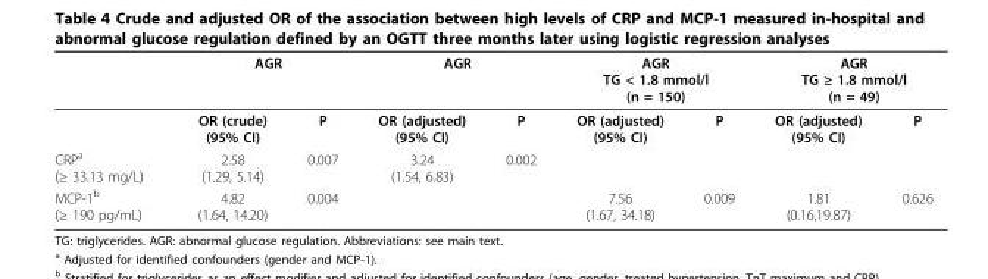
<table><thead><tr><td rowspan="2"></td><td colspan="2">AGR</td><td colspan="2">AGR</td><td colspan="2">AGR TG &lt; 1.8 mmol/l (n = 150)</td><td colspan="2">AGR TG ≥ 1.8 mmol/l (n = 49)</td></tr><tr><td>OR (crude) (95% CI)</td><td>P</td><td>OR (adjusted) (95% CI)</td><td>P</td><td>OR (adjusted) (95% CI)</td><td>P</td><td>OR (adjusted) (95% CI)</td><td>P</td></tr></thead><tbody><tr><td>CRP<sup>a</sup> (≥ 33.13 mg/L)</td><td>2.58 (1.29, 5.14)</td><td>0.007</td><td>3.24 (1.54, 6.83)</td><td>0.002</td><td></td><td></td><td></td><td></td></tr><tr><td>MCP-1<sup>b</sup> (≥ 190 pg/mL)</td><td>4.82 (1.64, 14.20)</td><td>0.004</td><td></td><td></td><td>7.56 (1.67, 34.18)</td><td>0.009</td><td>1.81 (0.16,19.87)</td><td>0.626</td></tr></tbody></table>